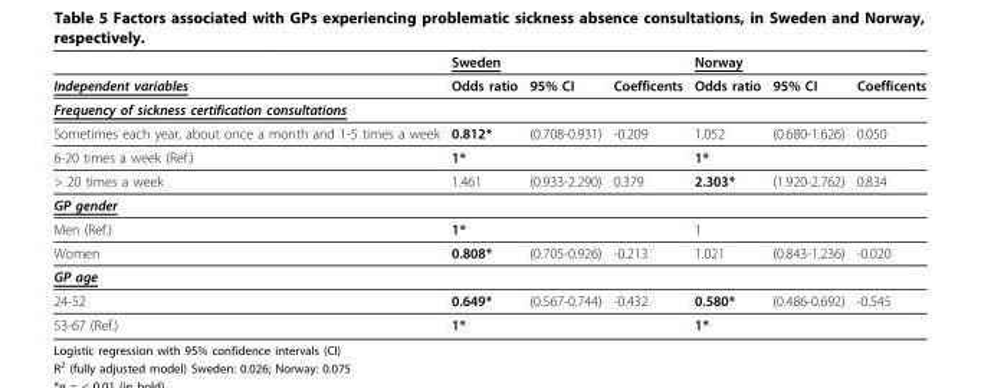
<table><thead><tr><td rowspan="2">Independent variables</td><td colspan="3">Sweden</td><td colspan="3">Norway</td></tr><tr><td>Odds ratio</td><td>95% CI</td><td>Coefficents</td><td>Odds ratio</td><td>95% CI</td><td>Coefficents</td></tr></thead><tbody><tr><td colspan="7">Frequency of sickness certification consultations</td></tr><tr><td>Sometimes each year, about once a month and 1-5 times a week</td><td>0.812*</td><td>(0.708-0.931)</td><td>-0.209</td><td>1.052</td><td>(0.680-1.626)</td><td>0.050</td></tr><tr><td>6-20 times a week (Ref.)</td><td>1*</td><td></td><td></td><td>1*</td><td></td><td></td></tr><tr><td>&gt; 20 times a week</td><td>1.461</td><td>(0.933-2.290)</td><td>0.379</td><td>2.303*</td><td>(1.920-2.762)</td><td>0.834</td></tr><tr><td colspan="7">GP gender</td></tr><tr><td>Men (Ref.)</td><td>1*</td><td></td><td></td><td>1</td><td></td><td></td></tr><tr><td>Women</td><td>0.808*</td><td>(0.705-0.926)</td><td>-0.213</td><td>1.021</td><td>(0.843-1.236)</td><td>-0.020</td></tr><tr><td colspan="7">GP age</td></tr><tr><td>24-52</td><td>0.649*</td><td>(0.567-0.744)</td><td>-0.432</td><td>0.580*</td><td>(0.486-0.692)</td><td>-0.545</td></tr><tr><td>53-67 (Ref.)</td><td>1*</td><td></td><td></td><td>1*</td><td></td><td></td></tr></tbody></table>